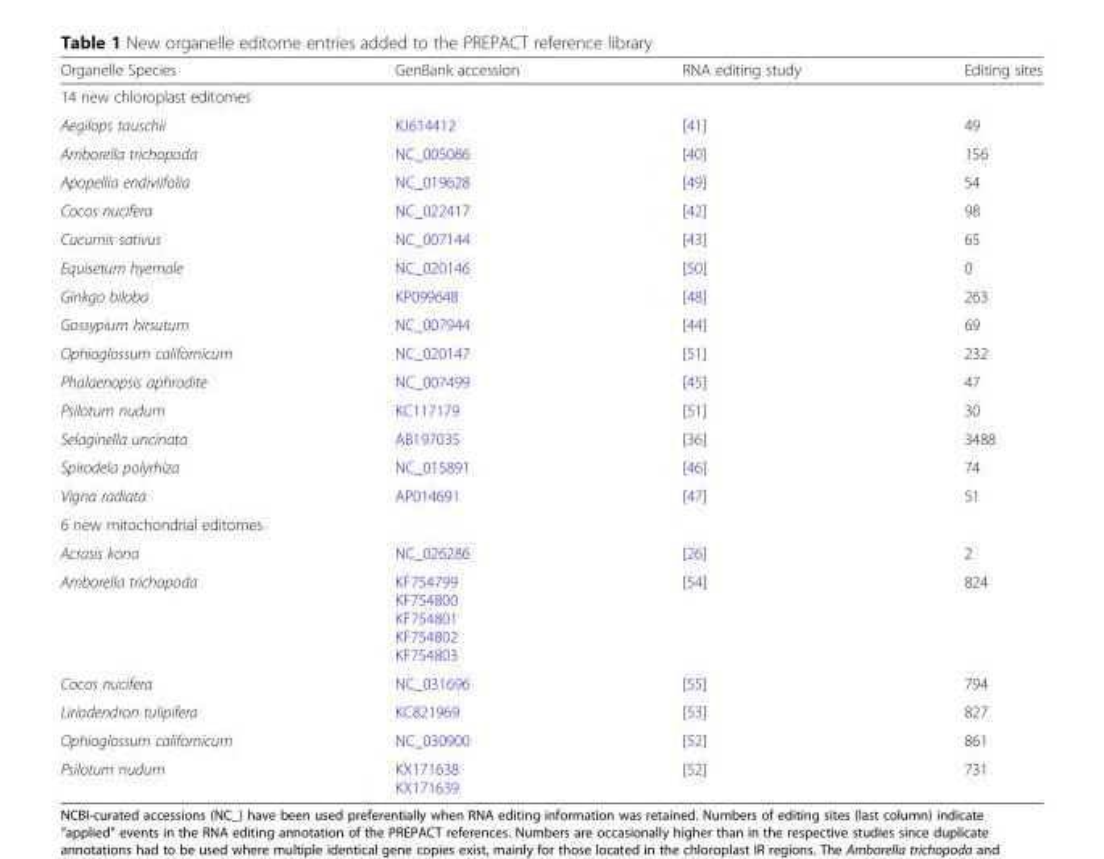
<table><thead><tr><td>Organelle Species</td><td>GenBank accession</td><td>RNA editing study</td><td>Editing sites</td></tr></thead><tbody><tr><td colspan="4">14 new chloroplast editomes</td></tr><tr><td>Aegilops tauschii</td><td>KJ614412</td><td>[41]</td><td>49</td></tr><tr><td>Amborella trichopoda</td><td>NC_005086</td><td>[40]</td><td>156</td></tr><tr><td>Apopellia endiviifolia</td><td>NC_019628</td><td>[49]</td><td>54</td></tr><tr><td>Cocos nucifera</td><td>NC_022417</td><td>[42]</td><td>98</td></tr><tr><td>Cucumis sativus</td><td>NC_007144</td><td>[43]</td><td>65</td></tr><tr><td>Equisetum hyemale</td><td>NC_020146</td><td>[50]</td><td>0</td></tr><tr><td>Ginkgo biloba</td><td>KP099648</td><td>[48]</td><td>263</td></tr><tr><td>Gossypium hirsutum</td><td>NC_007944</td><td>[44]</td><td>69</td></tr><tr><td>Ophioglossum californicum</td><td>NC_020147</td><td>[51]</td><td>232</td></tr><tr><td>Phalaenopsis aphrodite</td><td>NC_007499</td><td>[45]</td><td>47</td></tr><tr><td>Psilotum nudum</td><td>KC117179</td><td>[51]</td><td>30</td></tr><tr><td>Selaginella uncinata</td><td>AB197035</td><td>[36]</td><td>3488</td></tr><tr><td>Spirodela polyrhiza</td><td>NC_015891</td><td>[46]</td><td>74</td></tr><tr><td>Vigna radiata</td><td>AP014691</td><td>[47]</td><td>51</td></tr><tr><td colspan="4">6 new mitochondrial editomes</td></tr><tr><td>Acrasis kona</td><td>NC_026286</td><td>[26]</td><td>2</td></tr><tr><td>Amborella trichopoda</td><td>KF754799 KF754800 KF754801 KF754802 KF754803</td><td>[54]</td><td>824</td></tr><tr><td>Cocos nucifera</td><td>NC_031696</td><td>[55]</td><td>794</td></tr><tr><td>Liriodendron tulipifera</td><td>KC821969</td><td>[53]</td><td>827</td></tr><tr><td>Ophioglossum californicum</td><td>NC_030900</td><td>[52]</td><td>861</td></tr><tr><td>Psilotum nudum</td><td>KX171638 KX171639</td><td>[52]</td><td>731</td></tr></tbody></table>